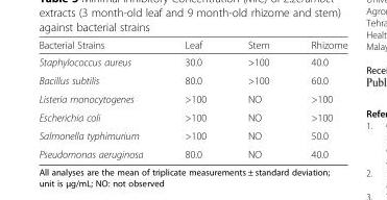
<table><thead><tr><td>Bacterial Strains</td><td>Leaf</td><td>Stem</td><td>Rhizome</td></tr></thead><tbody><tr><td>Staphylococcus aureus</td><td>30.0</td><td>&gt;100</td><td>40.0</td></tr><tr><td>Bacillus subtilis</td><td>80.0</td><td>&gt;100</td><td>60.0</td></tr><tr><td>Listeria monocytogenes</td><td>&gt;100</td><td>NO</td><td>&gt;100</td></tr><tr><td>Escherichia coli</td><td>&gt;100</td><td>NO</td><td>&gt;100</td></tr><tr><td>Salmonella typhimurium</td><td>&gt;100</td><td>NO</td><td>50.0</td></tr><tr><td>Pseudomonas aeruginosa</td><td>80.0</td><td>NO</td><td>40.0</td></tr></tbody></table>